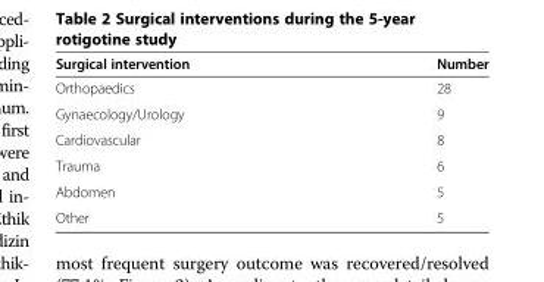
<table><thead><tr><td>Surgical intervention</td><td>Number</td></tr></thead><tbody><tr><td>Orthopaedics</td><td>28</td></tr><tr><td>Gynaecology/Urology</td><td>9</td></tr><tr><td>Cardiovascular</td><td>8</td></tr><tr><td>Trauma</td><td>6</td></tr><tr><td>Abdomen</td><td>5</td></tr><tr><td>Other</td><td>5</td></tr></tbody></table>